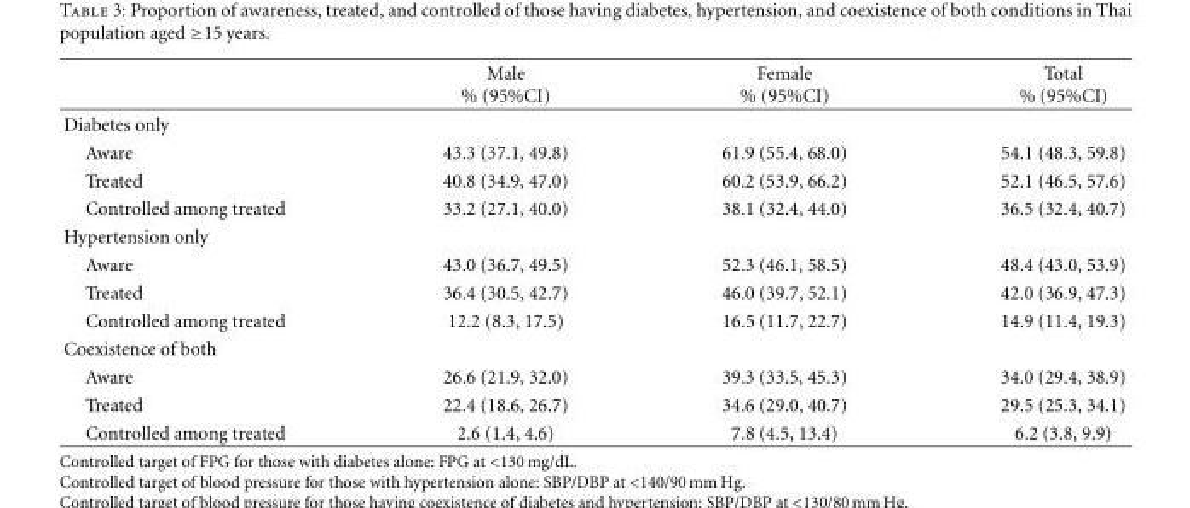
<table><thead><tr><td></td><td>Male % (95%CI)</td><td>Female % (95%CI)</td><td>Total % (95%CI)</td></tr></thead><tbody><tr><td colspan="4">Diabetes only</td></tr><tr><td>Aware</td><td>43.3 (37.1, 49.8)</td><td>61.9 (55.4, 68.0)</td><td>54.1 (48.3, 59.8)</td></tr><tr><td>Treated</td><td>40.8 (34.9, 47.0)</td><td>60.2 (53.9, 66.2)</td><td>52.1 (46.5, 57.6)</td></tr><tr><td>Controlled among treated</td><td>33.2 (27.1, 40.0)</td><td>38.1 (32.4, 44.0)</td><td>36.5 (32.4, 40.7)</td></tr><tr><td colspan="4">Hypertension only</td></tr><tr><td>Aware</td><td>43.0 (36.7, 49.5)</td><td>52.3 (46.1, 58.5)</td><td>48.4 (43.0, 53.9)</td></tr><tr><td>Treated</td><td>36.4 (30.5, 42.7)</td><td>46.0 (39.7, 52.1)</td><td>42.0 (36.9, 47.3)</td></tr><tr><td>Controlled among treated</td><td>12.2 (8.3, 17.5)</td><td>16.5 (11.7, 22.7)</td><td>14.9 (11.4, 19.3)</td></tr><tr><td colspan="4">Coexistence of both</td></tr><tr><td>Aware</td><td>26.6 (21.9, 32.0)</td><td>39.3 (33.5, 45.3)</td><td>34.0 (29.4, 38.9)</td></tr><tr><td>Treated</td><td>22.4 (18.6, 26.7)</td><td>34.6 (29.0, 40.7)</td><td>29.5 (25.3, 34.1)</td></tr><tr><td>Controlled among treated</td><td>2.6 (1.4, 4.6)</td><td>7.8 (4.5, 13.4)</td><td>6.2 (3.8, 9.9)</td></tr></tbody></table>